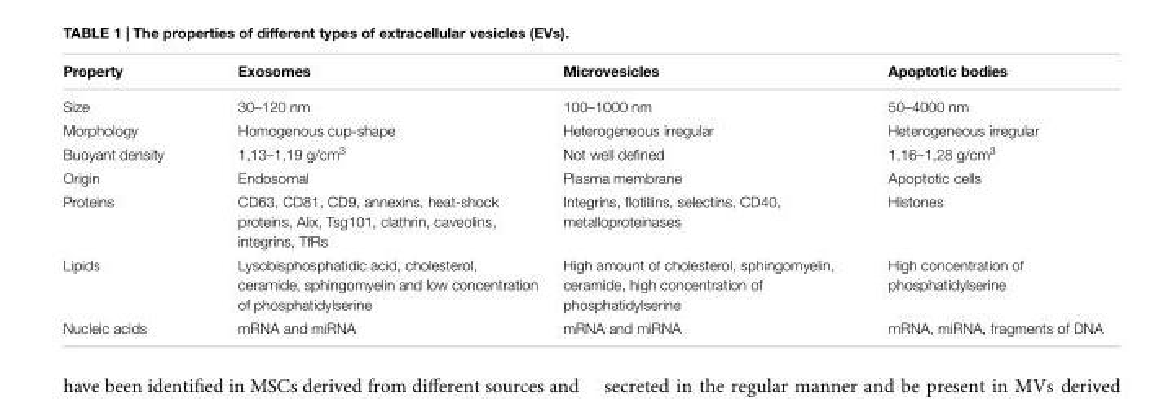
<table><thead><tr><td>Property</td><td>Exosomes</td><td>Microvesicles</td><td>Apoptotic bodies</td></tr></thead><tbody><tr><td>Size</td><td>30–120 nm</td><td>100–1000 nm</td><td>50–4000 nm</td></tr><tr><td>Morphology</td><td>Homogenous cup-shape</td><td>Heterogeneous irregular</td><td>Heterogeneous irregular</td></tr><tr><td>Buoyant density</td><td>1,13–1,19 g/cm<sup>3</sup></td><td>Not well defined</td><td>1,16–1,28 g/cm<sup>3</sup></td></tr><tr><td>Origin</td><td>Endosomal</td><td>Plasma membrane</td><td>Apoptotic cells</td></tr><tr><td>Proteins</td><td>CD63, CD81, CD9, annexins, heat-shock proteins, Alix, Tsg101, clathrin, caveolins, integrins, TfRs</td><td>Integrins, flotillins, selectins, CD40, metalloproteinases</td><td>Histones</td></tr><tr><td>Lipids</td><td>Lysobisphosphatidic acid, cholesterol, ceramide, sphingomyelin and low concentration of phosphatidylserine</td><td>High amount of cholesterol, sphingomyelin, ceramide, high concentration of phosphatidylserine</td><td>High concentration of phosphatidylserine</td></tr><tr><td>Nucleic acids</td><td>mRNA and miRNA</td><td>mRNA and miRNA</td><td>mRNA, miRNA, fragments of DNA</td></tr></tbody></table>